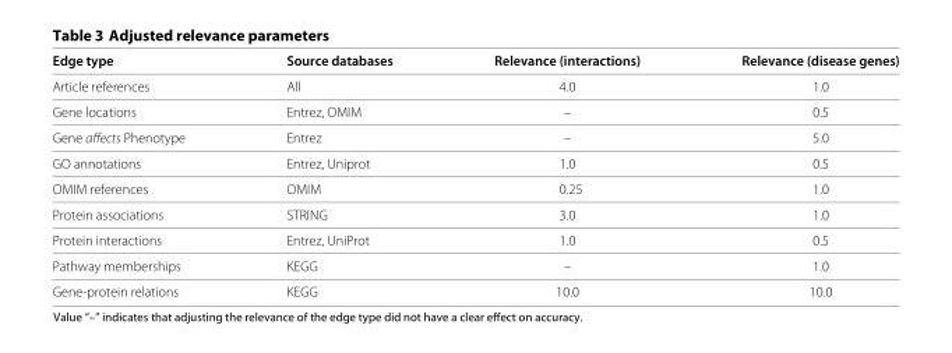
<table><thead><tr><td>Edge type</td><td>Source databases</td><td>Relevance (interactions)</td><td>Relevance (disease genes)</td></tr></thead><tbody><tr><td>Article references</td><td>All</td><td>4.0</td><td>1.0</td></tr><tr><td>Gene locations</td><td>Entrez, OMIM</td><td>–</td><td>0.5</td></tr><tr><td>Gene affects Phenotype</td><td>Entrez</td><td>–</td><td>5.0</td></tr><tr><td>GO annotations</td><td>Entrez, Uniprot</td><td>1.0</td><td>0.5</td></tr><tr><td>OMIM references</td><td>OMIM</td><td>0.25</td><td>1.0</td></tr><tr><td>Protein associations</td><td>STRING</td><td>3.0</td><td>1.0</td></tr><tr><td>Protein interactions</td><td>Entrez, UniProt</td><td>1.0</td><td>0.5</td></tr><tr><td>Pathway memberships</td><td>KEGG</td><td>–</td><td>1.0</td></tr><tr><td>Gene-protein relations</td><td>KEGG</td><td>10.0</td><td>10.0</td></tr></tbody></table>